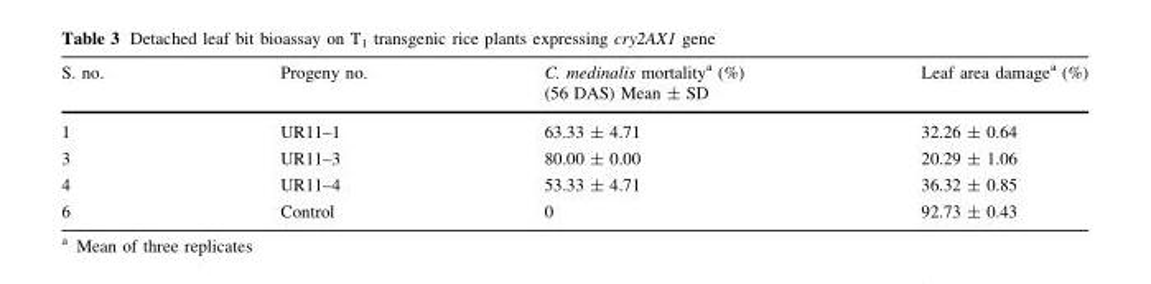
<table><thead><tr><td>S. no.</td><td>Progeny no.</td><td>C. medinalis mortality<sup>a</sup> (%) (56 DAS) Mean ± SD</td><td>Leaf area damage<sup>a</sup> (%)</td></tr></thead><tbody><tr><td>1</td><td>UR11–1</td><td>63.33 ± 4.71</td><td>32.26 ± 0.64</td></tr><tr><td>3</td><td>UR11–3</td><td>80.00 ± 0.00</td><td>20.29 ± 1.06</td></tr><tr><td>4</td><td>UR11–4</td><td>53.33 ± 4.71</td><td>36.32 ± 0.85</td></tr><tr><td>6</td><td>Control</td><td>0</td><td>92.73 ± 0.43</td></tr></tbody></table>